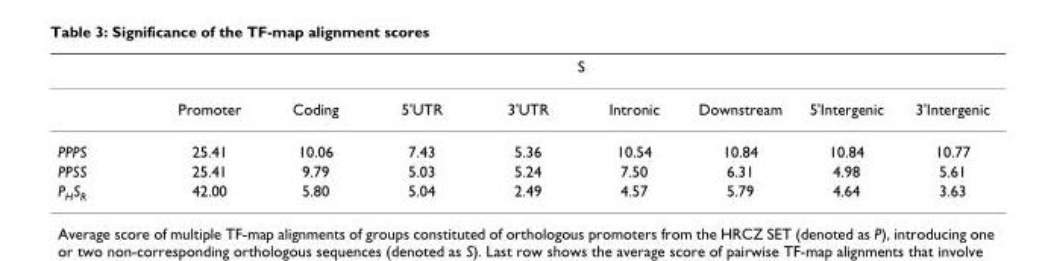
<table><thead><tr><td rowspan="2"></td><td colspan="8">S</td></tr><tr><td>Promoter</td><td>Coding</td><td>5&#x27;UTR</td><td>3&#x27;UTR</td><td>Intronic</td><td>Downstream</td><td>5&#x27;Intergenic</td><td>3&#x27;Intergenic</td></tr></thead><tbody><tr><td>PPPS</td><td>25.41</td><td>10.06</td><td>7.43</td><td>5.36</td><td>10.54</td><td>10.84</td><td>10.84</td><td>10.77</td></tr><tr><td>PPSS</td><td>25.41</td><td>9.79</td><td>5.03</td><td>5.24</td><td>7.50</td><td>6.31</td><td>4.98</td><td>5.61</td></tr><tr><td>P<sub>H</sub>S<sub>R</sub></td><td>42.00</td><td>5.80</td><td>5.04</td><td>2.49</td><td>4.57</td><td>5.79</td><td>4.64</td><td>3.63</td></tr></tbody></table>